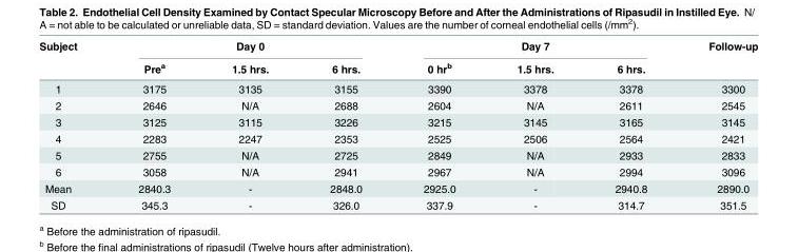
<table><thead><tr><td rowspan="2">Subject</td><td colspan="3">Day 0</td><td colspan="3">Day 7</td><td rowspan="2">Follow-up</td></tr><tr><td>Pre<sup>a</sup></td><td>1.5 hrs.</td><td>6 hrs.</td><td>0 hr<sup>b</sup></td><td>1.5 hrs.</td><td>6 hrs.</td></tr></thead><tbody><tr><td>1</td><td>3175</td><td>3135</td><td>3155</td><td>3390</td><td>3378</td><td>3378</td><td>3300</td></tr><tr><td>2</td><td>2646</td><td>N/A</td><td>2688</td><td>2604</td><td>N/A</td><td>2611</td><td>2545</td></tr><tr><td>3</td><td>3125</td><td>3115</td><td>3226</td><td>3215</td><td>3145</td><td>3165</td><td>3145</td></tr><tr><td>4</td><td>2283</td><td>2247</td><td>2353</td><td>2525</td><td>2506</td><td>2564</td><td>2421</td></tr><tr><td>5</td><td>2755</td><td>N/A</td><td>2725</td><td>2849</td><td>N/A</td><td>2933</td><td>2833</td></tr><tr><td>6</td><td>3058</td><td>N/A</td><td>2941</td><td>2967</td><td>N/A</td><td>2994</td><td>3096</td></tr><tr><td>Mean</td><td>2840.3</td><td>-</td><td>2848.0</td><td>2925.0</td><td>-</td><td>2940.8</td><td>2890.0</td></tr><tr><td>SD</td><td>345.3</td><td>-</td><td>326.0</td><td>337.9</td><td>-</td><td>314.7</td><td>351.5</td></tr></tbody></table>